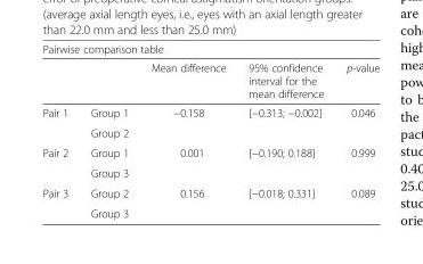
<table><thead><tr><td colspan="5">Pairwise comparison table</td></tr><tr><td></td><td></td><td>Mean difference</td><td>95% confidence interval for the mean difference</td><td>p-value</td></tr></thead><tbody><tr><td rowspan="2">Pair 1</td><td>Group 1</td><td rowspan="2">−0.158</td><td rowspan="2">[−0.313; −0.002]</td><td rowspan="2">0.046</td></tr><tr><td>Group 2</td></tr><tr><td rowspan="2">Pair 2</td><td>Group 1</td><td rowspan="2">0.001</td><td rowspan="2">[−0.190; 0.188]</td><td rowspan="2">0.999</td></tr><tr><td>Group 3</td></tr><tr><td rowspan="2">Pair 3</td><td>Group 2</td><td rowspan="2">0.156</td><td rowspan="2">[−0.018; 0.331]</td><td rowspan="2">0.089</td></tr><tr><td>Group 3</td></tr></tbody></table>